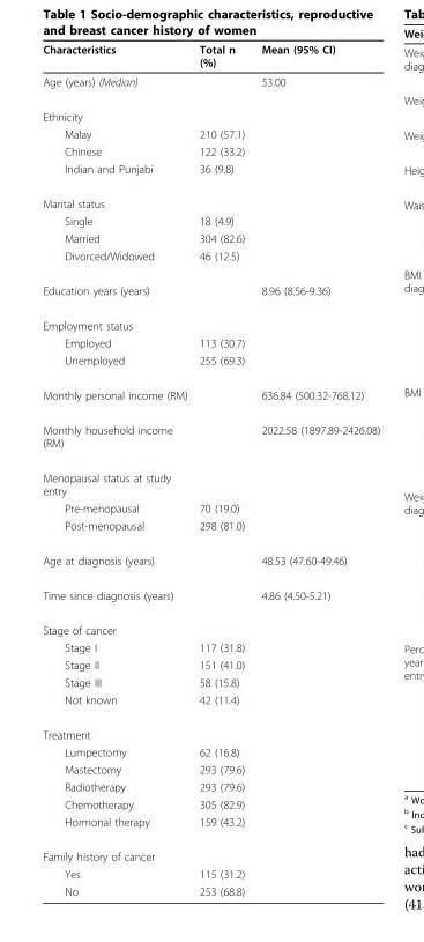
<table><thead><tr><td>Characteristics</td><td>Total n (%)</td><td>Mean (95% CI)</td></tr></thead><tbody><tr><td>Age (years) (Median)</td><td></td><td>53.00</td></tr><tr><td colspan="3">Ethnicity</td></tr><tr><td>Malay</td><td>210 (57.1)</td><td></td></tr><tr><td>Chinese</td><td>122 (33.2)</td><td></td></tr><tr><td>Indian and Punjabi</td><td>36 (9.8)</td><td></td></tr><tr><td colspan="3">Marital status</td></tr><tr><td>Single</td><td>18 (4.9)</td><td></td></tr><tr><td>Married</td><td>304 (82.6)</td><td></td></tr><tr><td>Divorced/Widowed</td><td>46 (12.5)</td><td></td></tr><tr><td>Education years (years)</td><td></td><td>8.96 (8.56-9.36)</td></tr><tr><td colspan="3">Employment status</td></tr><tr><td>Employed</td><td>113 (30.7)</td><td></td></tr><tr><td>Unemployed</td><td>255 (69.3)</td><td></td></tr><tr><td>Monthly personal income (RM)</td><td></td><td>636.84 (500.32-768.12)</td></tr><tr><td>Monthly household income (RM)</td><td></td><td>2022.58 (1897.89-2426.08)</td></tr><tr><td colspan="3">Menopausal status at study entry</td></tr><tr><td>Pre-menopausal</td><td>70 (19.0)</td><td></td></tr><tr><td>Post-menopausal</td><td>298 (81.0)</td><td></td></tr><tr><td>Age at diagnosis (years)</td><td></td><td>48.53 (47.60-49.46)</td></tr><tr><td>Time since diagnosis (years)</td><td></td><td>4.86 (4.50-5.21)</td></tr><tr><td colspan="3">Stage of cancer</td></tr><tr><td>Stage I</td><td>117 (31.8)</td><td></td></tr><tr><td>Stage II</td><td>151 (41.0)</td><td></td></tr><tr><td>Stage III</td><td>58 (15.8)</td><td></td></tr><tr><td>Not known</td><td>42 (11.4)</td><td></td></tr><tr><td colspan="3">Treatment</td></tr><tr><td>Lumpectomy</td><td>62 (16.8)</td><td></td></tr><tr><td>Mastectomy</td><td>293 (79.6)</td><td></td></tr><tr><td>Radiotherapy</td><td>293 (79.6)</td><td></td></tr><tr><td>Chemotherapy</td><td>305 (82.9)</td><td></td></tr><tr><td>Hormonal therapy</td><td>159 (43.2)</td><td></td></tr><tr><td colspan="3">Family history of cancer</td></tr><tr><td>Yes</td><td>115 (31.2)</td><td></td></tr><tr><td>No</td><td>253 (68.8)</td><td></td></tr></tbody></table>